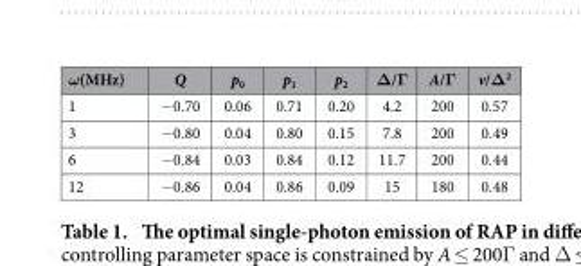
<table><thead><tr><td>ω(MHz)</td><td>Q</td><td>p<sub>0</sub></td><td>p<sub>1</sub></td><td>p<sub>2</sub></td><td>Δ/Γ</td><td>A/Γ</td><td>v/Δ<sup>2</sup></td></tr></thead><tbody><tr><td>1</td><td>− 0.70</td><td>0.06</td><td>0.71</td><td>0.20</td><td>4.2</td><td>200</td><td>0.57</td></tr><tr><td>3</td><td>− 0.80</td><td>0.04</td><td>0.80</td><td>0.15</td><td>7.8</td><td>200</td><td>0.49</td></tr><tr><td>6</td><td>− 0.84</td><td>0.03</td><td>0.84</td><td>0.12</td><td>11.7</td><td>200</td><td>0.44</td></tr><tr><td>12</td><td>− 0.86</td><td>0.04</td><td>0.86</td><td>0.09</td><td>15</td><td>180</td><td>0.48</td></tr></tbody></table>